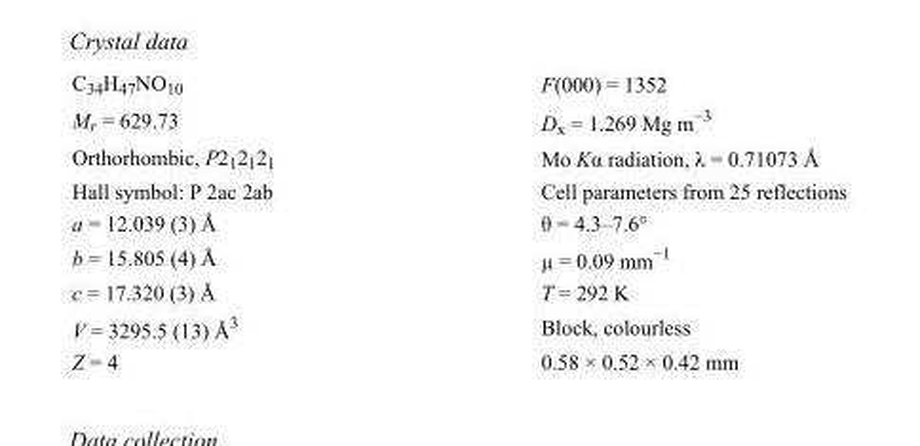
<table><tbody><tr><td>C<sub>34</sub>H<sub>47</sub>NO<sub>10</sub></td><td>F(000) = 1352</td></tr><tr><td>M<sub>r</sub> = 629.73</td><td>D<sub>x</sub> = 1.269 Mg m<sup>−3</sup></td></tr><tr><td>Orthorhombic, P2<sub>1</sub>2<sub>1</sub>2<sub>1</sub></td><td>Mo Kα radiation, λ = 0.71073 Å</td></tr><tr><td>Hall symbol: P 2ac 2ab</td><td>Cell parameters from 25 reflections</td></tr><tr><td>a = 12.039 (3) Å</td><td>θ = 4.3–7.6°</td></tr><tr><td>b = 15.805 (4) Å</td><td>µ = 0.09 mm<sup>−1</sup></td></tr><tr><td>c = 17.320 (3) Å</td><td>T = 292 K</td></tr><tr><td>V = 3295.5 (13) Å<sup>3</sup></td><td>Block, colourless</td></tr><tr><td>Z = 4</td><td>0.58 × 0.52 × 0.42 mm</td></tr></tbody></table>